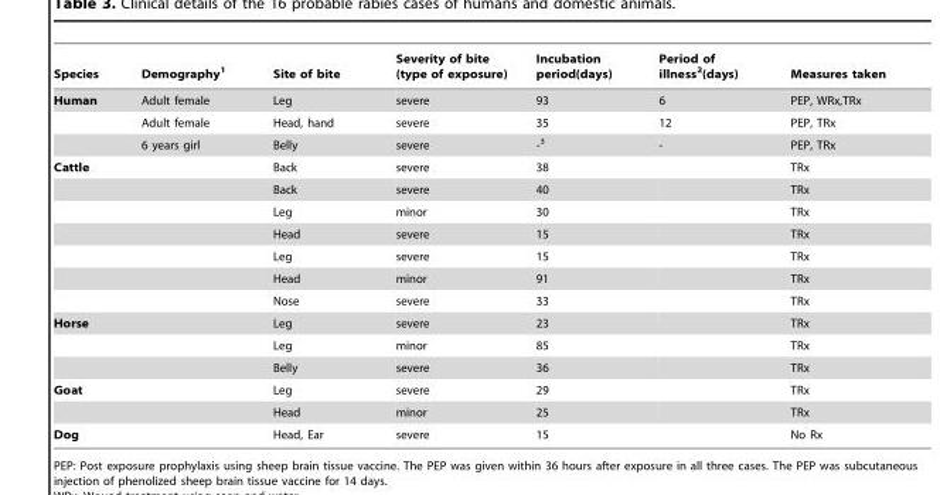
<table><thead><tr><td>Species</td><td>Demography<sup>1</sup></td><td>Site of bite</td><td>Severity of bite (type of exposure)</td><td>Incubation period(days)</td><td>Period of illness<sup>2</sup>(days)</td><td>Measures taken</td></tr></thead><tbody><tr><td rowspan="3">Human</td><td>Adult female</td><td>Leg</td><td>severe</td><td>93</td><td>6</td><td>PEP, WRx,TRx</td></tr><tr><td>Adult female</td><td>Head, hand</td><td>severe</td><td>35</td><td>12</td><td>PEP, TRx</td></tr><tr><td>6 years girl</td><td>Belly</td><td>severe</td><td>-3</td><td>-</td><td>PEP, TRx</td></tr><tr><td rowspan="7">Cattle</td><td></td><td>Back</td><td>severe</td><td>38</td><td></td><td>TRx</td></tr><tr><td></td><td>Back</td><td>severe</td><td>40</td><td></td><td>TRx</td></tr><tr><td></td><td>Leg</td><td>minor</td><td>30</td><td></td><td>TRx</td></tr><tr><td></td><td>Head</td><td>severe</td><td>15</td><td></td><td>TRx</td></tr><tr><td></td><td>Leg</td><td>severe</td><td>15</td><td></td><td>TRx</td></tr><tr><td></td><td>Head</td><td>minor</td><td>91</td><td></td><td>TRx</td></tr><tr><td></td><td>Nose</td><td>severe</td><td>33</td><td></td><td>TRx</td></tr><tr><td rowspan="3">Horse</td><td></td><td>Leg</td><td>severe</td><td>23</td><td></td><td>TRx</td></tr><tr><td></td><td>Leg</td><td>minor</td><td>85</td><td></td><td>TRx</td></tr><tr><td></td><td>Belly</td><td>severe</td><td>36</td><td></td><td>TRx</td></tr><tr><td rowspan="2">Goat</td><td></td><td>Leg</td><td>severe</td><td>29</td><td></td><td>TRx</td></tr><tr><td></td><td>Head</td><td>minor</td><td>25</td><td></td><td>TRx</td></tr><tr><td>Dog</td><td></td><td>Head, Ear</td><td>severe</td><td>15</td><td></td><td>No Rx</td></tr></tbody></table>